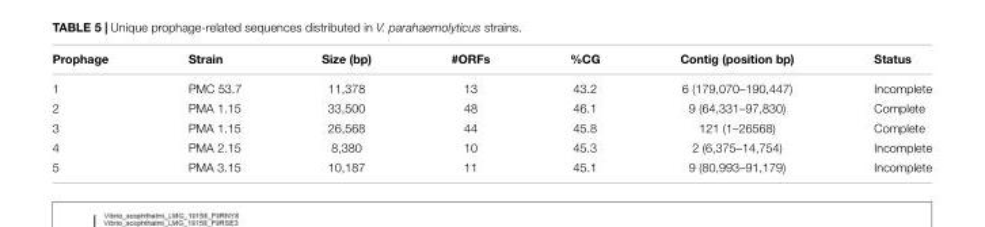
<table><thead><tr><td>Prophage</td><td>Strain</td><td>Size (bp)</td><td>#ORFs</td><td>%CG</td><td>Contig (position bp)</td><td>Status</td></tr></thead><tbody><tr><td>1</td><td>PMC 53.7</td><td>11,378</td><td>13</td><td>43.2</td><td>6 (179,070–190,447)</td><td>Incomplete</td></tr><tr><td>2</td><td>PMA 1.15</td><td>33,500</td><td>48</td><td>46.1</td><td>9 (64,331–97,830)</td><td>Complete</td></tr><tr><td>3</td><td>PMA 1.15</td><td>26,568</td><td>44</td><td>45.8</td><td>121 (1–26568)</td><td>Complete</td></tr><tr><td>4</td><td>PMA 2.15</td><td>8,380</td><td>10</td><td>45.3</td><td>2 (6,375–14,754)</td><td>Incomplete</td></tr><tr><td>5</td><td>PMA 3.15</td><td>10,187</td><td>11</td><td>45.1</td><td>9 (80,993–91,179)</td><td>Incomplete</td></tr></tbody></table>